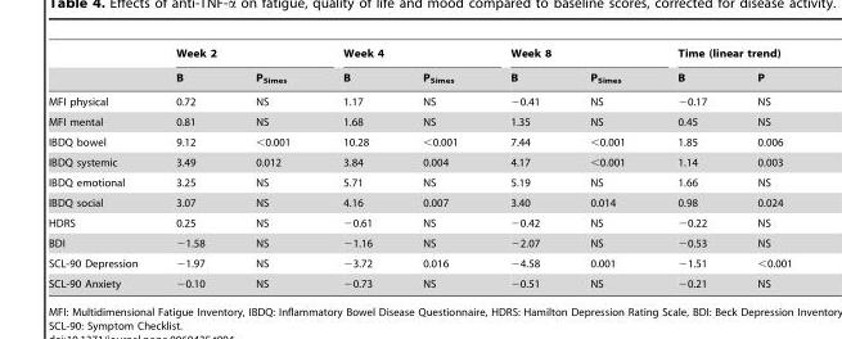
<table><thead><tr><td rowspan="2"></td><td colspan="2">Week 2</td><td colspan="2">Week 4</td><td colspan="2">Week 8</td><td colspan="2">Time (linear trend)</td></tr><tr><td>B</td><td>P<sub>Simes</sub></td><td>B</td><td>P<sub>Simes</sub></td><td>B</td><td>P<sub>Simes</sub></td><td>B</td><td>P</td></tr></thead><tbody><tr><td>MFI physical</td><td>0.72</td><td>NS</td><td>1.17</td><td>NS</td><td>−0.41</td><td>NS</td><td>−0.17</td><td>NS</td></tr><tr><td>MFI mental</td><td>0.81</td><td>NS</td><td>1.68</td><td>NS</td><td>1.35</td><td>NS</td><td>0.45</td><td>NS</td></tr><tr><td>IBDQ bowel</td><td>9.12</td><td>&lt;0.001</td><td>10.28</td><td>&lt;0.001</td><td>7.44</td><td>&lt;0.001</td><td>1.85</td><td>0.006</td></tr><tr><td>IBDQ systemic</td><td>3.49</td><td>0.012</td><td>3.84</td><td>0.004</td><td>4.17</td><td>&lt;0.001</td><td>1.14</td><td>0.003</td></tr><tr><td>IBDQ emotional</td><td>3.25</td><td>NS</td><td>5.71</td><td>NS</td><td>5.19</td><td>NS</td><td>1.66</td><td>NS</td></tr><tr><td>IBDQ social</td><td>3.07</td><td>NS</td><td>4.16</td><td>0.007</td><td>3.40</td><td>0.014</td><td>0.98</td><td>0.024</td></tr><tr><td>HDRS</td><td>0.25</td><td>NS</td><td>−0.61</td><td>NS</td><td>−0.42</td><td>NS</td><td>−0.22</td><td>NS</td></tr><tr><td>BDI</td><td>−1.58</td><td>NS</td><td>−1.16</td><td>NS</td><td>−2.07</td><td>NS</td><td>−0.53</td><td>NS</td></tr><tr><td>SCL-90 Depression</td><td>−1.97</td><td>NS</td><td>−3.72</td><td>0.016</td><td>−4.58</td><td>0.001</td><td>−1.51</td><td>&lt;0.001</td></tr><tr><td>SCL-90 Anxiety</td><td>−0.10</td><td>NS</td><td>−0.73</td><td>NS</td><td>−0.51</td><td>NS</td><td>−0.21</td><td>NS</td></tr></tbody></table>